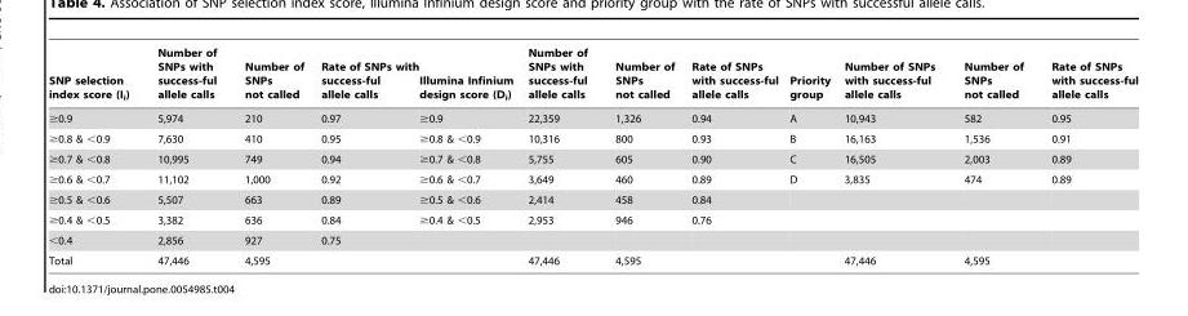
<table><thead><tr><td>SNP selection index score (I<sub>i</sub>)</td><td>Number of SNPs with success-ful allele calls</td><td>Number of SNPs not called</td><td>Rate of SNPs with success-ful allele calls</td><td>Illumina Infinium design score (D<sub>i</sub>)</td><td>Number of SNPs with success-ful allele calls</td><td>Number of SNPs not called</td><td>Rate of SNPs with success-ful allele calls</td><td>Priority group</td><td>Number of SNPs with success-ful allele calls</td><td>Number of SNPs not called</td><td>Rate of SNPs with success-ful allele calls</td></tr></thead><tbody><tr><td>≥0.9</td><td>5,974</td><td>210</td><td>0.97</td><td>≥0.9</td><td>22,359</td><td>1,326</td><td>0.94</td><td>A</td><td>10,943</td><td>582</td><td>0.95</td></tr><tr><td>≥0.8 &amp; &lt;0.9</td><td>7,630</td><td>410</td><td>0.95</td><td>≥0.8 &amp; &lt;0.9</td><td>10,316</td><td>800</td><td>0.93</td><td>B</td><td>16,163</td><td>1,536</td><td>0.91</td></tr><tr><td>≥0.7 &amp; &lt;0.8</td><td>10,995</td><td>749</td><td>0.94</td><td>≥0.7 &amp; &lt;0.8</td><td>5,755</td><td>605</td><td>0.90</td><td>C</td><td>16,505</td><td>2,003</td><td>0.89</td></tr><tr><td>≥0.6 &amp; &lt;0.7</td><td>11,102</td><td>1,000</td><td>0.92</td><td>≥0.6 &amp; &lt;0.7</td><td>3,649</td><td>460</td><td>0.89</td><td>D</td><td>3,835</td><td>474</td><td>0.89</td></tr><tr><td>≥0.5 &amp; &lt;0.6</td><td>5,507</td><td>663</td><td>0.89</td><td>≥0.5 &amp; &lt;0.6</td><td>2,414</td><td>458</td><td>0.84</td><td></td><td></td><td></td><td></td></tr><tr><td>≥0.4 &amp; &lt;0.5</td><td>3,382</td><td>636</td><td>0.84</td><td>≥0.4 &amp; &lt;0.5</td><td>2,953</td><td>946</td><td>0.76</td><td></td><td></td><td></td><td></td></tr><tr><td>&lt;0.4</td><td>2,856</td><td>927</td><td>0.75</td><td></td><td></td><td></td><td></td><td></td><td></td><td></td><td></td></tr><tr><td>Total</td><td>47,446</td><td>4,595</td><td></td><td></td><td>47,446</td><td>4,595</td><td></td><td></td><td>47,446</td><td>4,595</td><td></td></tr></tbody></table>